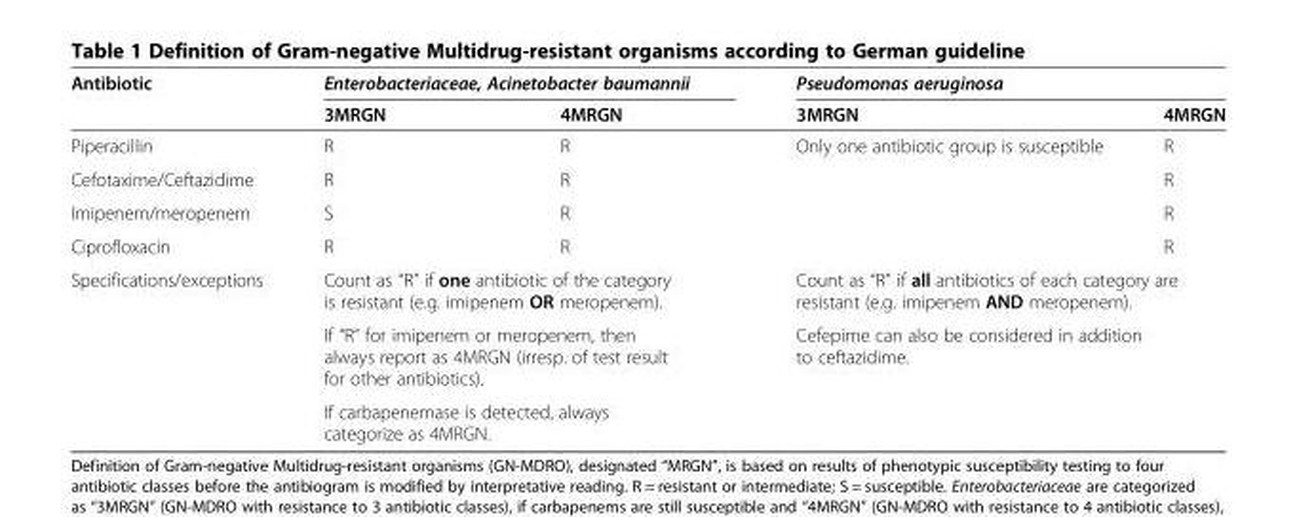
<table><thead><tr><td rowspan="2">Antibiotic</td><td colspan="2">Enterobacteriaceae, Acinetobacter baumannii</td><td colspan="2">Pseudomonas aeruginosa</td></tr><tr><td>3MRGN</td><td>4MRGN</td><td>3MRGN</td><td>4MRGN</td></tr></thead><tbody><tr><td>Piperacillin</td><td>R</td><td>R</td><td>Only one antibiotic group is susceptible</td><td>R</td></tr><tr><td>Cefotaxime/Ceftazidime</td><td>R</td><td>R</td><td></td><td>R</td></tr><tr><td>Imipenem/meropenem</td><td>S</td><td>R</td><td></td><td>R</td></tr><tr><td>Ciprofloxacin</td><td>R</td><td>R</td><td></td><td>R</td></tr><tr><td rowspan="3">Specifications/exceptions</td><td colspan="2">Count as “R” if one antibiotic of the category is resistant (e.g. imipenem OR meropenem).</td><td colspan="2">Count as “R” if all antibiotics of each category are resistant (e.g. imipenem AND meropenem).</td></tr><tr><td colspan="2">If “R” for imipenem or meropenem, then always report as 4MRGN (irresp. of test result for other antibiotics).</td><td rowspan="2" colspan="2">Cefepime can also be considered in addition to ceftazidime.</td></tr><tr><td colspan="2">If carbapenemase is detected, always categorize as 4MRGN.</td></tr></tbody></table>